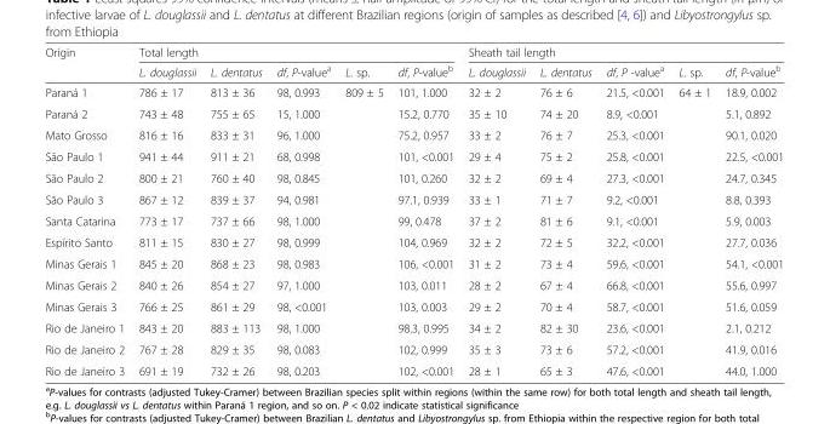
<table><thead><tr><td rowspan="2">Origin</td><td colspan="5">Total length</td><td colspan="5">Sheath tail length</td></tr><tr><td>L. douglassii</td><td>L. dentatus</td><td>df, P-value<sup>a</sup></td><td>L. sp.</td><td>df, P-value<sup>b</sup></td><td>L. douglassii</td><td>L. dentatus</td><td>df, P -value<sup>a</sup></td><td>L. sp.</td><td>df, P-value<sup>b</sup></td></tr></thead><tbody><tr><td>Paraná 1</td><td>786 ± 17</td><td>813 ± 36</td><td>98, 0.993</td><td rowspan="14">809 ± 5</td><td>101, 1.000</td><td>32 ± 2</td><td>76 ± 6</td><td>21.5, &lt;0.001</td><td rowspan="14">64 ± 1</td><td>18.9, 0.002</td></tr><tr><td>Paraná 2</td><td>743 ± 48</td><td>755 ± 65</td><td>15, 1.000</td><td>15.2, 0.770</td><td>35 ± 10</td><td>74 ± 20</td><td>8.9, &lt;0.001</td><td>5.1, 0.892</td></tr><tr><td>Mato Grosso</td><td>816 ± 16</td><td>833 ± 31</td><td>96, 1.000</td><td>75.2, 0.957</td><td>33 ± 2</td><td>76 ± 7</td><td>25.3, &lt;0.001</td><td>90.1, 0.020</td></tr><tr><td>São Paulo 1</td><td>941 ± 44</td><td>911 ± 21</td><td>68, 0.998</td><td>101, &lt;0.001</td><td>29 ± 4</td><td>75 ± 2</td><td>25.8, &lt;0.001</td><td>22.5, &lt;0.001</td></tr><tr><td>São Paulo 2</td><td>800 ± 21</td><td>760 ± 40</td><td>98, 0.845</td><td>101, 0.260</td><td>32 ± 2</td><td>69 ± 4</td><td>27.3, &lt;0.001</td><td>24.7, 0.345</td></tr><tr><td>São Paulo 3</td><td>867 ± 12</td><td>839 ± 37</td><td>94, 0.981</td><td>97.1, 0.939</td><td>33 ± 1</td><td>71 ± 7</td><td>9.2, &lt;0.001</td><td>8.8, 0.393</td></tr><tr><td>Santa Catarina</td><td>773 ± 17</td><td>737 ± 66</td><td>98, 1.000</td><td>99, 0.478</td><td>37 ± 2</td><td>81 ± 6</td><td>9.1, &lt;0.001</td><td>5.9, 0.003</td></tr><tr><td>Espírito Santo</td><td>811 ± 15</td><td>830 ± 27</td><td>98, 0.999</td><td>104, 0.969</td><td>32 ± 2</td><td>72 ± 5</td><td>32.2, &lt;0.001</td><td>27.7, 0.036</td></tr><tr><td>Minas Gerais 1</td><td>845 ± 20</td><td>868 ± 23</td><td>98, 0.983</td><td>106, &lt;0.001</td><td>31 ± 2</td><td>73 ± 4</td><td>59.6, &lt;0.001</td><td>54.1, &lt;0.001</td></tr><tr><td>Minas Gerais 2</td><td>840 ± 26</td><td>854 ± 27</td><td>97, 1.000</td><td>103, 0.011</td><td>28 ± 2</td><td>67 ± 4</td><td>66.8, &lt;0.001</td><td>55.6, 0.997</td></tr><tr><td>Minas Gerais 3</td><td>766 ± 25</td><td>861 ± 29</td><td>98, &lt;0.001</td><td>103, 0.003</td><td>29 ± 2</td><td>70 ± 4</td><td>58.7, &lt;0.001</td><td>51.6, 0.059</td></tr><tr><td>Rio de Janeiro 1</td><td>843 ± 20</td><td>883 ± 113</td><td>98, 1.000</td><td>98.3, 0.995</td><td>34 ± 2</td><td>82 ± 30</td><td>23.6, &lt;0.001</td><td>2.1, 0.212</td></tr><tr><td>Rio de Janeiro 2</td><td>767 ± 28</td><td>829 ± 35</td><td>98, 0.083</td><td>102, 0.999</td><td>35 ± 3</td><td>73 ± 6</td><td>57.2, &lt;0.001</td><td>41.9, 0.016</td></tr><tr><td>Rio de Janeiro 3</td><td>691 ± 19</td><td>732 ± 26</td><td>98, 0.203</td><td>102, &lt;0.001</td><td>28 ± 1</td><td>65 ± 3</td><td>47.6, &lt;0.001</td><td>44.0, 1.000</td></tr></tbody></table>